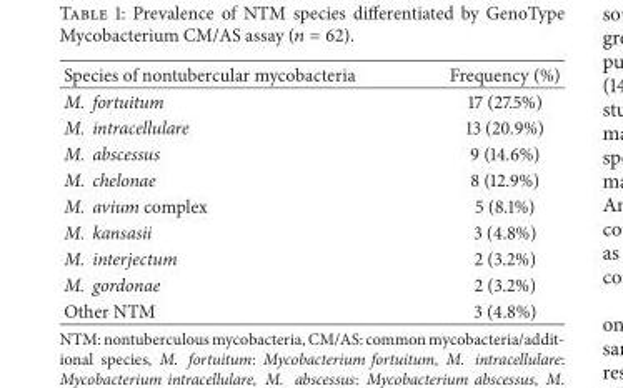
<table><thead><tr><td>Species of nontubercular mycobacteria</td><td>Frequency (%)</td></tr></thead><tbody><tr><td>M. fortuitum</td><td>17 (27.5%)</td></tr><tr><td>M. intracellulare</td><td>13 (20.9%)</td></tr><tr><td>M. abscessus</td><td>9 (14.6%)</td></tr><tr><td>M. chelonae</td><td>8 (12.9%)</td></tr><tr><td>M. avium complex</td><td>5 (8.1%)</td></tr><tr><td>M. kansasii</td><td>3 (4.8%)</td></tr><tr><td>M. interjectum</td><td>2 (3.2%)</td></tr><tr><td>M. gordonae</td><td>2 (3.2%)</td></tr><tr><td>Other NTM</td><td>3 (4.8%)</td></tr></tbody></table>